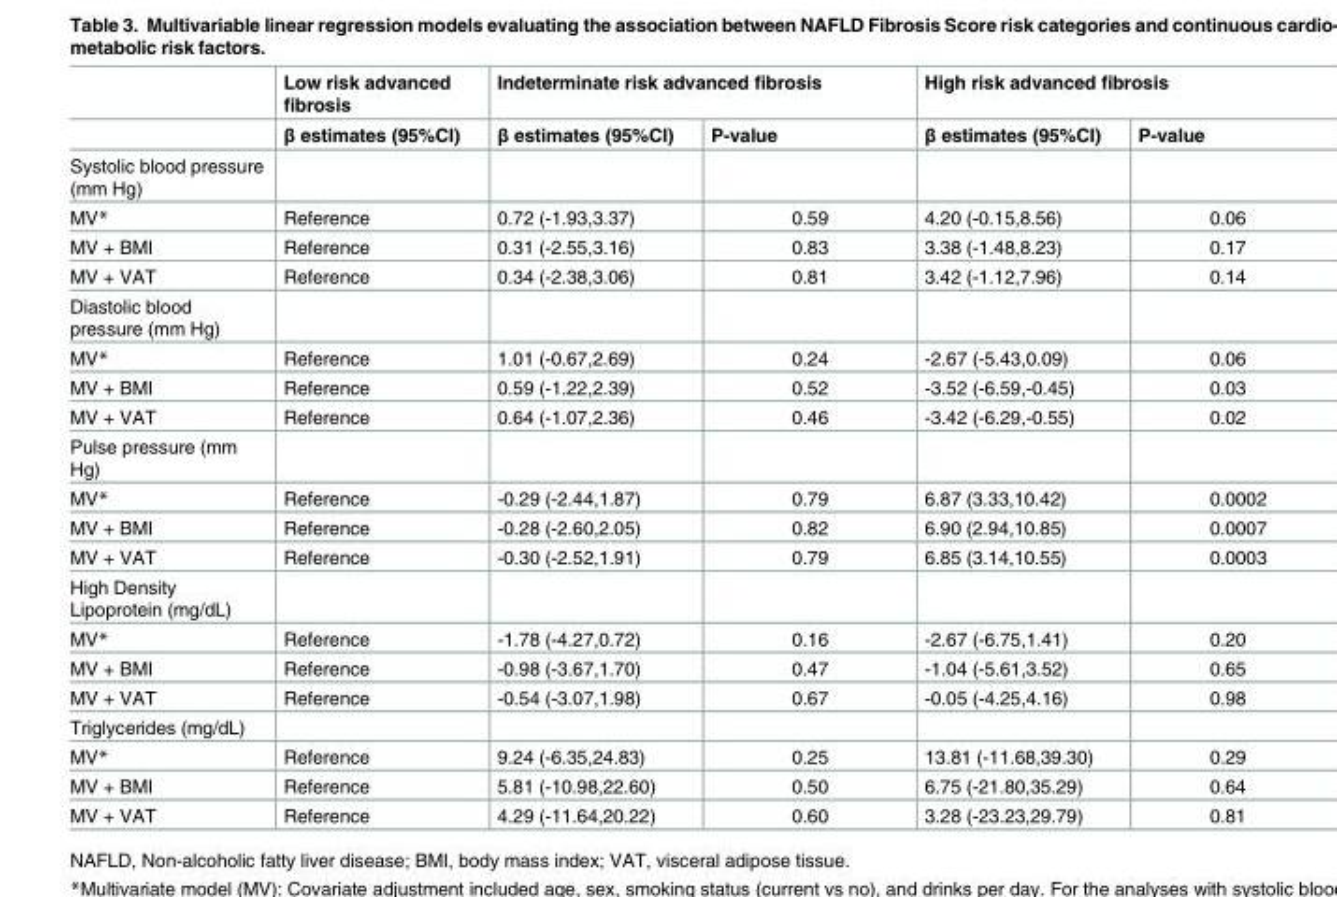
<table><thead><tr><td rowspan="2"></td><td rowspan="2">Low risk advanced fibrosis β estimates (95%CI)</td><td colspan="2">Indeterminate risk advanced fibrosis</td><td colspan="2">High risk advanced fibrosis</td></tr><tr><td>β estimates (95%CI)</td><td>P-value</td><td>β estimates (95%CI)</td><td>P-value</td></tr></thead><tbody><tr><td colspan="6">Systolic blood pressure (mm Hg)</td></tr><tr><td>MV*</td><td>Reference</td><td>0.72 (-1.93,3.37)</td><td>0.59</td><td>4.20 (-0.15,8.56)</td><td>0.06</td></tr><tr><td>MV + BMI</td><td>Reference</td><td>0.31 (-2.55,3.16)</td><td>0.83</td><td>3.38 (-1.48,8.23)</td><td>0.17</td></tr><tr><td>MV + VAT</td><td>Reference</td><td>0.34 (-2.38,3.06)</td><td>0.81</td><td>3.42 (-1.12,7.96)</td><td>0.14</td></tr><tr><td colspan="6">Diastolic blood pressure (mm Hg)</td></tr><tr><td>MV*</td><td>Reference</td><td>1.01 (-0.67,2.69)</td><td>0.24</td><td>-2.67 (-5.43,0.09)</td><td>0.06</td></tr><tr><td>MV + BMI</td><td>Reference</td><td>0.59 (-1.22,2.39)</td><td>0.52</td><td>-3.52 (-6.59,-0.45)</td><td>0.03</td></tr><tr><td>MV + VAT</td><td>Reference</td><td>0.64 (-1.07,2.36)</td><td>0.46</td><td>-3.42 (-6.29,-0.55)</td><td>0.02</td></tr><tr><td colspan="6">Pulse pressure (mm Hg)</td></tr><tr><td>MV*</td><td>Reference</td><td>-0.29 (-2.44,1.87)</td><td>0.79</td><td>6.87 (3.33,10.42)</td><td>0.0002</td></tr><tr><td>MV + BMI</td><td>Reference</td><td>-0.28 (-2.60,2.05)</td><td>0.82</td><td>6.90 (2.94,10.85)</td><td>0.0007</td></tr><tr><td>MV + VAT</td><td>Reference</td><td>-0.30 (-2.52,1.91)</td><td>0.79</td><td>6.85 (3.14,10.55)</td><td>0.0003</td></tr><tr><td colspan="6">High Density Lipoprotein (mg/dL)</td></tr><tr><td>MV*</td><td>Reference</td><td>-1.78 (-4.27,0.72)</td><td>0.16</td><td>-2.67 (-6.75,1.41)</td><td>0.20</td></tr><tr><td>MV + BMI</td><td>Reference</td><td>-0.98 (-3.67,1.70)</td><td>0.47</td><td>-1.04 (-5.61,3.52)</td><td>0.65</td></tr><tr><td>MV + VAT</td><td>Reference</td><td>-0.54 (-3.07,1.98)</td><td>0.67</td><td>-0.05 (-4.25,4.16)</td><td>0.98</td></tr><tr><td colspan="6">Triglycerides (mg/dL)</td></tr><tr><td>MV*</td><td>Reference</td><td>9.24 (-6.35,24.83)</td><td>0.25</td><td>13.81 (-11.68,39.30)</td><td>0.29</td></tr><tr><td>MV + BMI</td><td>Reference</td><td>5.81 (-10.98,22.60)</td><td>0.50</td><td>6.75 (-21.80,35.29)</td><td>0.64</td></tr><tr><td>MV + VAT</td><td>Reference</td><td>4.29 (-11.64,20.22)</td><td>0.60</td><td>3.28 (-23.23,29.79)</td><td>0.81</td></tr></tbody></table>